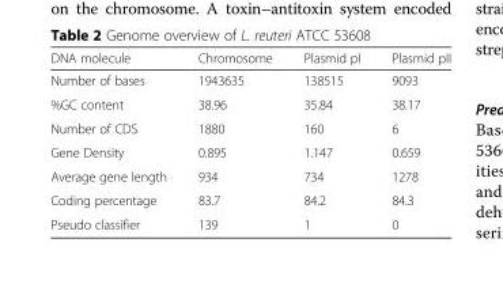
<table><thead><tr><td>DNA molecule</td><td>Chromosome</td><td>Plasmid pI</td><td>Plasmid pII</td></tr></thead><tbody><tr><td>Number of bases</td><td>1943635</td><td>138515</td><td>9093</td></tr><tr><td>%GC content</td><td>38.96</td><td>35.84</td><td>38.17</td></tr><tr><td>Number of CDS</td><td>1880</td><td>160</td><td>6</td></tr><tr><td>Gene Density</td><td>0.895</td><td>1.147</td><td>0.659</td></tr><tr><td>Average gene length</td><td>934</td><td>734</td><td>1278</td></tr><tr><td>Coding percentage</td><td>83.7</td><td>84.2</td><td>84.3</td></tr><tr><td>Pseudo classifier</td><td>139</td><td>1</td><td>0</td></tr></tbody></table>